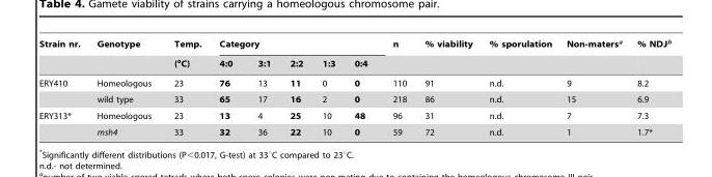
<table><thead><tr><td rowspan="2">Strain nr.</td><td rowspan="2">Genotype</td><td rowspan="2">Temp. (°C)</td><td colspan="5">Category</td><td rowspan="2">n</td><td rowspan="2">% viability</td><td rowspan="2">% sporulation</td><td rowspan="2">Non-maters<sup>a</sup></td><td rowspan="2">% NDJ<sup>b</sup></td></tr><tr><td>4:0</td><td>3:1</td><td>2:2</td><td>1:3</td><td>0:4</td></tr></thead><tbody><tr><td rowspan="2">ERY410</td><td>Homeologous</td><td>23</td><td>76</td><td>13</td><td>11</td><td>0</td><td>0</td><td>110</td><td>91</td><td>n.d.</td><td>9</td><td>8.2</td></tr><tr><td>wild type</td><td>33</td><td>65</td><td>17</td><td>16</td><td>2</td><td>0</td><td>218</td><td>86</td><td>n.d.</td><td>15</td><td>6.9</td></tr><tr><td rowspan="2">ERY313*</td><td>Homeologous</td><td>23</td><td>13</td><td>4</td><td>25</td><td>10</td><td>48</td><td>96</td><td>31</td><td>n.d.</td><td>7</td><td>7.3</td></tr><tr><td>msh4</td><td>33</td><td>32</td><td>36</td><td>22</td><td>10</td><td>0</td><td>59</td><td>72</td><td>n.d.</td><td>1</td><td>1.7*</td></tr></tbody></table>